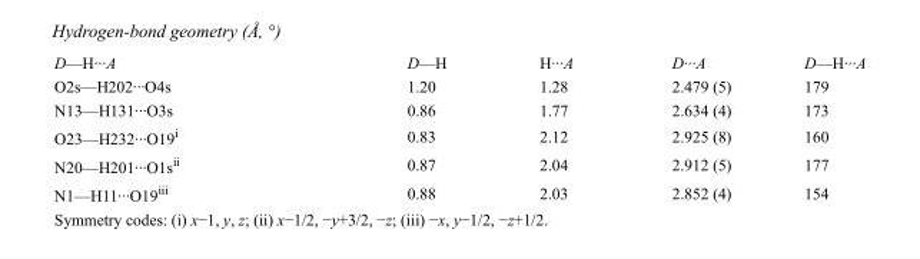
<table><tbody><tr><td>D—H···A</td><td>D—H</td><td>H···A</td><td>D···A</td><td>D—H···A</td></tr><tr><td>O2s—H202···O4s</td><td>1.20</td><td>1.28</td><td>2.479 (5)</td><td>179</td></tr><tr><td>N13—H131···O3s</td><td>0.86</td><td>1.77</td><td>2.634 (4)</td><td>173</td></tr><tr><td>O23—H232···O19<sup>i</sup></td><td>0.83</td><td>2.12</td><td>2.925 (8)</td><td>160</td></tr><tr><td>N20—H201···O1s<sup>ii</sup></td><td>0.87</td><td>2.04</td><td>2.912 (5)</td><td>177</td></tr><tr><td>N1—H11···O19<sup>iii</sup></td><td>0.88</td><td>2.03</td><td>2.852 (4)</td><td>154</td></tr></tbody></table>